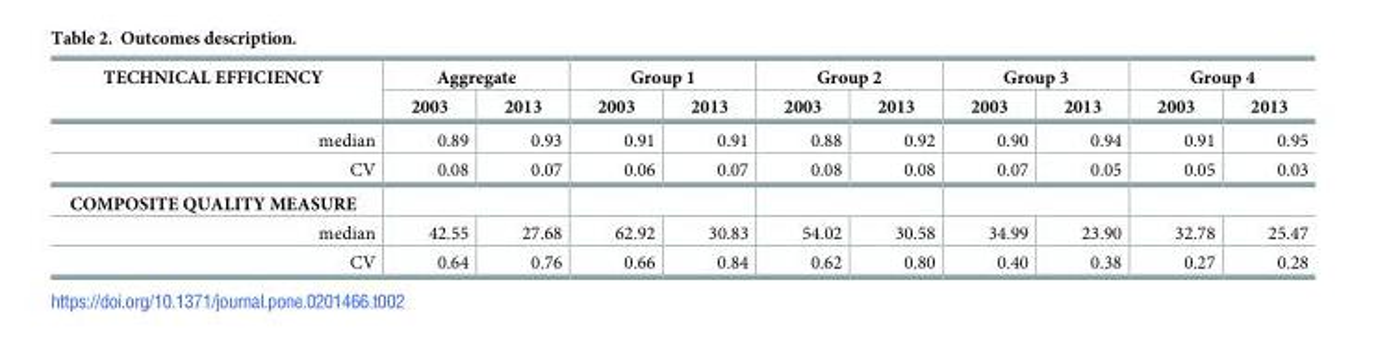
<table><thead><tr><td rowspan="2">TECHNICAL EFFICIENCY</td><td colspan="2">Aggregate</td><td colspan="2">Group 1</td><td colspan="2">Group 2</td><td colspan="2">Group 3</td><td colspan="2">Group 4</td></tr><tr><td>2003</td><td>2013</td><td>2003</td><td>2013</td><td>2003</td><td>2013</td><td>2003</td><td>2013</td><td>2003</td><td>2013</td></tr></thead><tbody><tr><td>median</td><td>0.89</td><td>0.93</td><td>0.91</td><td>0.91</td><td>0.88</td><td>0.92</td><td>0.90</td><td>0.94</td><td>0.91</td><td>0.95</td></tr><tr><td>CV</td><td>0.08</td><td>0.07</td><td>0.06</td><td>0.07</td><td>0.08</td><td>0.08</td><td>0.07</td><td>0.05</td><td>0.05</td><td>0.03</td></tr><tr><td colspan="11">COMPOSITE QUALITY MEASURE</td></tr><tr><td>median</td><td>42.55</td><td>27.68</td><td>62.92</td><td>30.83</td><td>54.02</td><td>30.58</td><td>34.99</td><td>23.90</td><td>32.78</td><td>25.47</td></tr><tr><td>CV</td><td>0.64</td><td>0.76</td><td>0.66</td><td>0.84</td><td>0.62</td><td>0.80</td><td>0.40</td><td>0.38</td><td>0.27</td><td>0.28</td></tr></tbody></table>